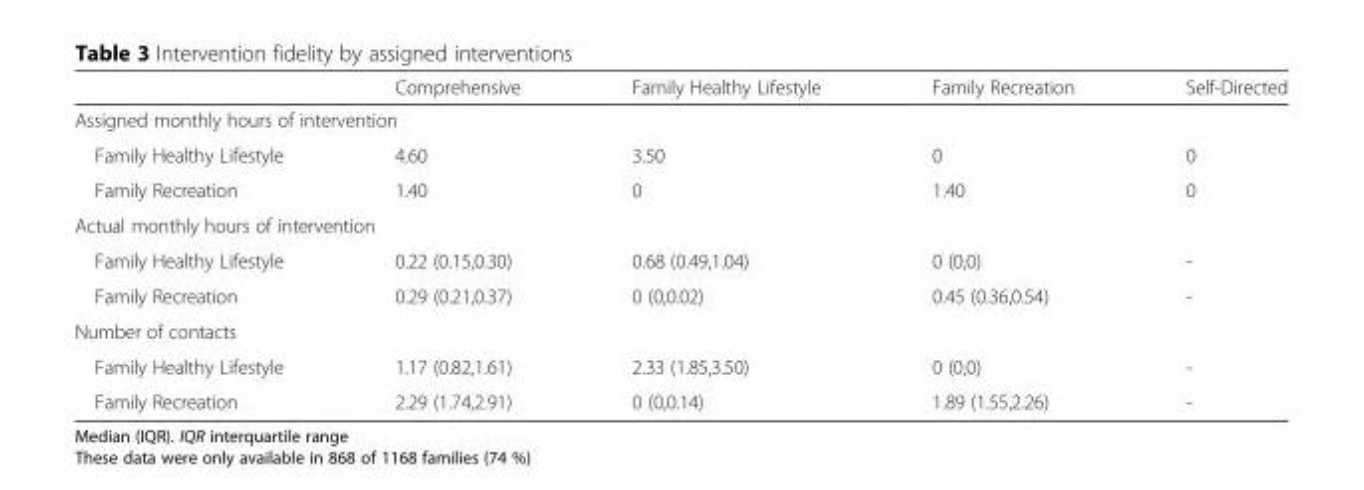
<table><thead><tr><td></td><td>Comprehensive</td><td>Family Healthy Lifestyle</td><td>Family Recreation</td><td>Self-Directed</td></tr></thead><tbody><tr><td colspan="5">Assigned monthly hours of intervention</td></tr><tr><td>Family Healthy Lifestyle</td><td>4.60</td><td>3.50</td><td>0</td><td>0</td></tr><tr><td>Family Recreation</td><td>1.40</td><td>0</td><td>1.40</td><td>0</td></tr><tr><td colspan="5">Actual monthly hours of intervention</td></tr><tr><td>Family Healthy Lifestyle</td><td>0.22 (0.15,0.30)</td><td>0.68 (0.49,1.04)</td><td>0 (0,0)</td><td>-</td></tr><tr><td>Family Recreation</td><td>0.29 (0.21,0.37)</td><td>0 (0,0.02)</td><td>0.45 (0.36,0.54)</td><td>-</td></tr><tr><td colspan="5">Number of contacts</td></tr><tr><td>Family Healthy Lifestyle</td><td>1.17 (0.82,1.61)</td><td>2.33 (1.85,3.50)</td><td>0 (0,0)</td><td>-</td></tr><tr><td>Family Recreation</td><td>2.29 (1.74,2.91)</td><td>0 (0,0.14)</td><td>1.89 (1.55,2.26)</td><td>-</td></tr></tbody></table>